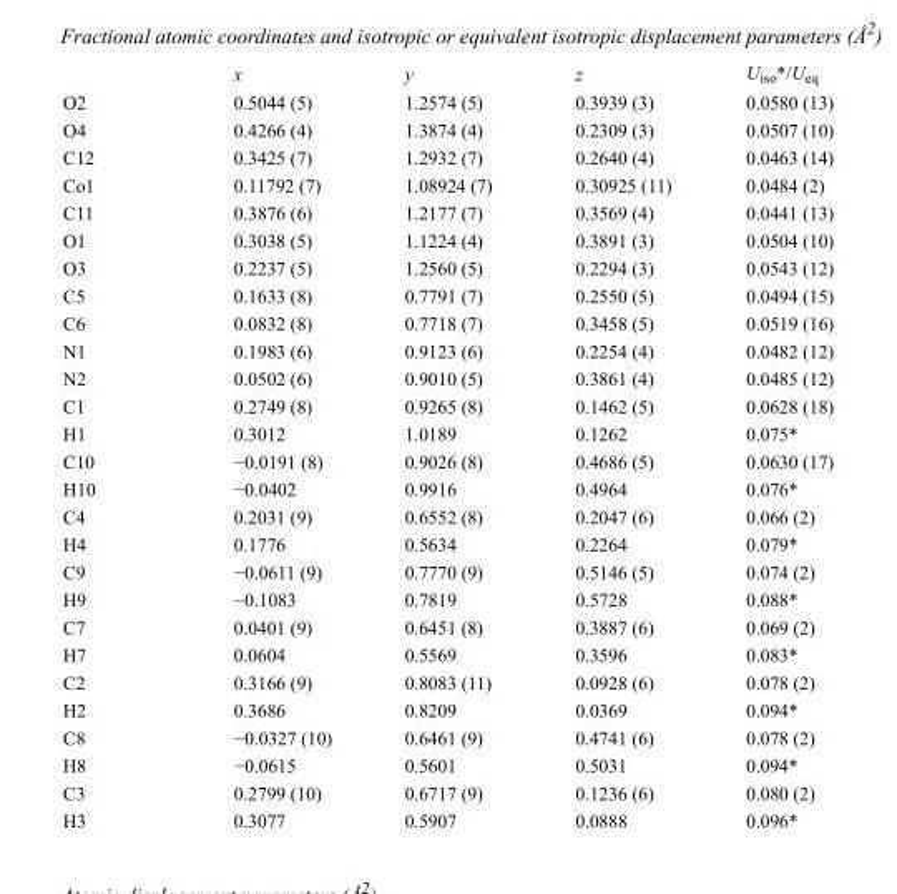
<table><thead><tr><td></td><td>x</td><td>y</td><td>z</td><td>U<sub>iso</sub>*/U<sub>eq</sub></td></tr></thead><tbody><tr><td>O2</td><td>0.5044 (5)</td><td>1.2574 (5)</td><td>0.3939 (3)</td><td>0.0580 (13)</td></tr><tr><td>O4</td><td>0.4266 (4)</td><td>1.3874 (4)</td><td>0.2309 (3)</td><td>0.0507 (10)</td></tr><tr><td>C12</td><td>0.3425 (7)</td><td>1.2932 (7)</td><td>0.2640 (4)</td><td>0.0463 (14)</td></tr><tr><td>Co1</td><td>0.11792 (7)</td><td>1.08924 (7)</td><td>0.30925 (11)</td><td>0.0484 (2)</td></tr><tr><td>C11</td><td>0.3876 (6)</td><td>1.2177 (7)</td><td>0.3569 (4)</td><td>0.0441 (13)</td></tr><tr><td>O1</td><td>0.3038 (5)</td><td>1.1224 (4)</td><td>0.3891 (3)</td><td>0.0504 (10)</td></tr><tr><td>O3</td><td>0.2237 (5)</td><td>1.2560 (5)</td><td>0.2294 (3)</td><td>0.0543 (12)</td></tr><tr><td>C5</td><td>0.1633 (8)</td><td>0.7791 (7)</td><td>0.2550 (5)</td><td>0.0494 (15)</td></tr><tr><td>C6</td><td>0.0832 (8)</td><td>0.7718 (7)</td><td>0.3458 (5)</td><td>0.0519 (16)</td></tr><tr><td>N1</td><td>0.1983 (6)</td><td>0.9123 (6)</td><td>0.2254 (4)</td><td>0.0482 (12)</td></tr><tr><td>N2</td><td>0.0502 (6)</td><td>0.9010 (5)</td><td>0.3861 (4)</td><td>0.0485 (12)</td></tr><tr><td>C1</td><td>0.2749 (8)</td><td>0.9265 (8)</td><td>0.1462 (5)</td><td>0.0628 (18)</td></tr><tr><td>H1</td><td>0.3012</td><td>1.0189</td><td>0.1262</td><td>0.075*</td></tr><tr><td>C10</td><td>−0.0191 (8)</td><td>0.9026 (8)</td><td>0.4686 (5)</td><td>0.0630 (17)</td></tr><tr><td>H10</td><td>−0.0402</td><td>0.9916</td><td>0.4964</td><td>0.076*</td></tr><tr><td>C4</td><td>0.2031 (9)</td><td>0.6552 (8)</td><td>0.2047 (6)</td><td>0.066 (2)</td></tr><tr><td>H4</td><td>0.1776</td><td>0.5634</td><td>0.2264</td><td>0.079*</td></tr><tr><td>C9</td><td>−0.0611 (9)</td><td>0.7770 (9)</td><td>0.5146 (5)</td><td>0.074 (2)</td></tr><tr><td>H9</td><td>−0.1083</td><td>0.7819</td><td>0.5728</td><td>0.088*</td></tr><tr><td>C7</td><td>0.0401 (9)</td><td>0.6451 (8)</td><td>0.3887 (6)</td><td>0.069 (2)</td></tr><tr><td>H7</td><td>0.0604</td><td>0.5569</td><td>0.3596</td><td>0.083*</td></tr><tr><td>C2</td><td>0.3166 (9)</td><td>0.8083 (11)</td><td>0.0928 (6)</td><td>0.078 (2)</td></tr><tr><td>H2</td><td>0.3686</td><td>0.8209</td><td>0.0369</td><td>0.094*</td></tr><tr><td>C8</td><td>−0.0327 (10)</td><td>0.6461 (9)</td><td>0.4741 (6)</td><td>0.078 (2)</td></tr><tr><td>H8</td><td>−0.0615</td><td>0.5601</td><td>0.5031</td><td>0.094*</td></tr><tr><td>C3</td><td>0.2799 (10)</td><td>0.6717 (9)</td><td>0.1236 (6)</td><td>0.080 (2)</td></tr><tr><td>H3</td><td>0.3077</td><td>0.5907</td><td>0.0888</td><td>0.096*</td></tr></tbody></table>